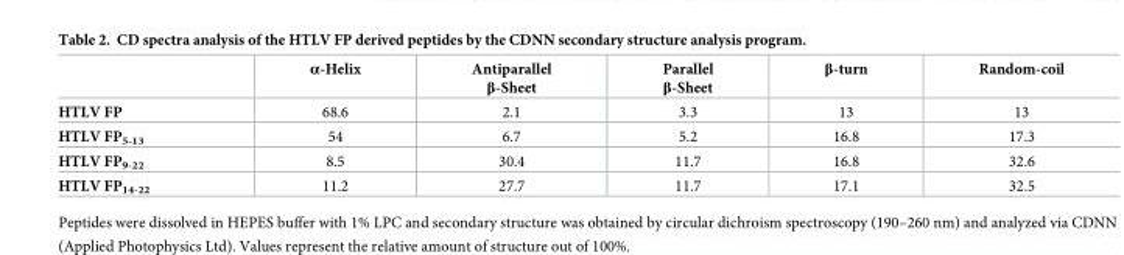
<table><thead><tr><td></td><td>α-Helix</td><td>Antiparallel β-Sheet</td><td>Parallel β-Sheet</td><td>β-turn</td><td>Random-coil</td></tr></thead><tbody><tr><td>HTLV FP</td><td>68.6</td><td>2.1</td><td>3.3</td><td>13</td><td>13</td></tr><tr><td>HTLV FP<sub>5-13</sub></td><td>54</td><td>6.7</td><td>5.2</td><td>16.8</td><td>17.3</td></tr><tr><td>HTLV FP<sub>9-22</sub></td><td>8.5</td><td>30.4</td><td>11.7</td><td>16.8</td><td>32.6</td></tr><tr><td>HTLV FP<sub>14-22</sub></td><td>11.2</td><td>27.7</td><td>11.7</td><td>17.1</td><td>32.5</td></tr></tbody></table>